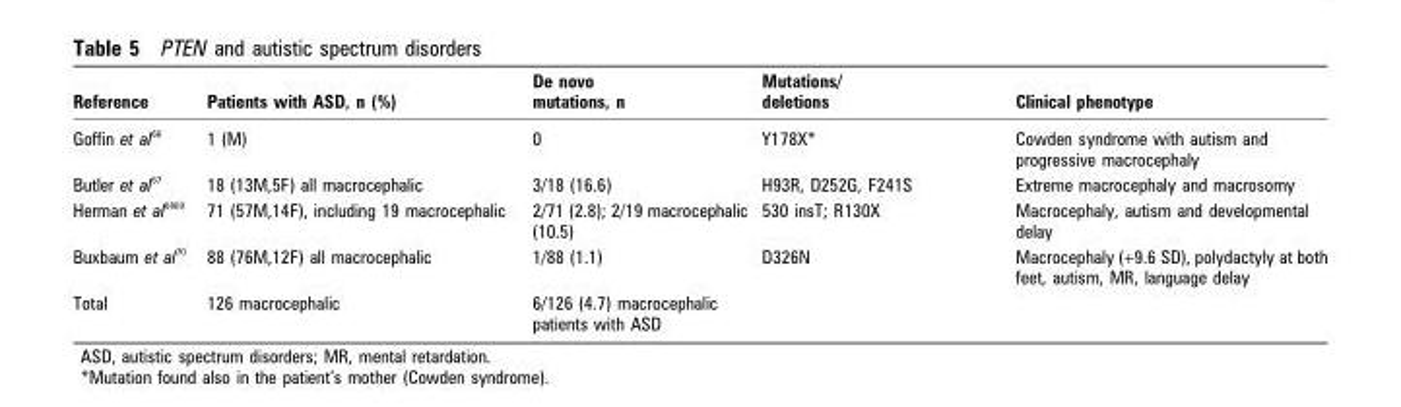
<table><thead><tr><td>Reference</td><td>Patients with ASD, n (%)</td><td>De novo mutations, n</td><td>Mutations/ deletions</td><td>Clinical phenotype</td></tr></thead><tbody><tr><td>Goffin et al <sup>66</sup></td><td>1 (M)</td><td>0</td><td>Y178X*</td><td>Cowden syndrome with autism and progressive macrocephaly</td></tr><tr><td>Butler et al <sup>67</sup></td><td>18 (13M,5F) all macrocephalic</td><td>3/18 (16.6)</td><td>H93R, D252G, F241S</td><td>Extreme macrocephaly and macrosomy</td></tr><tr><td>Herman et al <sup>6869</sup></td><td>71 (57M,14F), including 19 macrocephalic</td><td>2/71 (2.8); 2/19 macrocephalic (10.5)</td><td>530 insT; R130X</td><td>Macrocephaly, autism and developmental delay</td></tr><tr><td>Buxbaum et al <sup>70</sup></td><td>88 (76M,12F) all macrocephalic</td><td>1/88 (1.1)</td><td>D326N</td><td>Macrocephaly (+9.6 SD), polydactyly at both feet, autism, MR, language delay</td></tr><tr><td>Total</td><td>126 macrocephalic</td><td>6/126 (4.7) macrocephalic patients with ASD</td><td></td><td></td></tr></tbody></table>